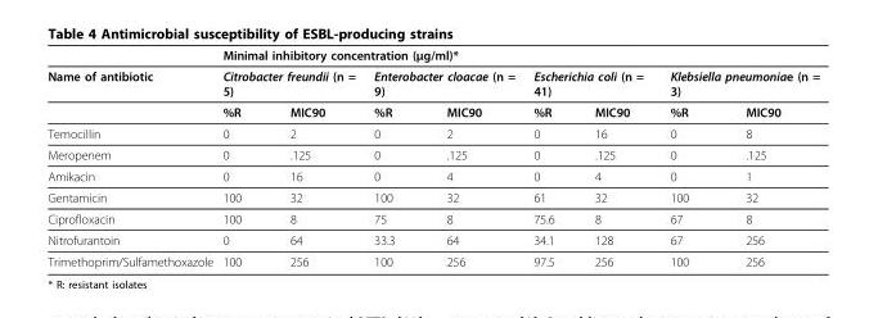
<table><thead><tr><td rowspan="3">Name of antibiotic</td><td colspan="8">Minimal inhibitory concentration (μg/ml)*</td></tr><tr><td colspan="2">Citrobacter freundii (n = 5)</td><td colspan="2">Enterobacter cloacae (n = 9)</td><td colspan="2">Escherichia coli (n = 41)</td><td colspan="2">Klebsiella pneumoniae (n = 3)</td></tr><tr><td>%R</td><td>MIC90</td><td>%R</td><td>MIC90</td><td>%R</td><td>MIC90</td><td>%R</td><td>MIC90</td></tr></thead><tbody><tr><td>Temocillin</td><td>0</td><td>2</td><td>0</td><td>2</td><td>0</td><td>16</td><td>0</td><td>8</td></tr><tr><td>Meropenem</td><td>0</td><td>.125</td><td>0</td><td>.125</td><td>0</td><td>.125</td><td>0</td><td>.125</td></tr><tr><td>Amikacin</td><td>0</td><td>16</td><td>0</td><td>4</td><td>0</td><td>4</td><td>0</td><td>1</td></tr><tr><td>Gentamicin</td><td>100</td><td>32</td><td>100</td><td>32</td><td>61</td><td>32</td><td>100</td><td>32</td></tr><tr><td>Ciprofloxacin</td><td>100</td><td>8</td><td>75</td><td>8</td><td>75.6</td><td>8</td><td>67</td><td>8</td></tr><tr><td>Nitrofurantoin</td><td>0</td><td>64</td><td>33.3</td><td>64</td><td>34.1</td><td>128</td><td>67</td><td>256</td></tr><tr><td>Trimethoprim/Sulfamethoxazole</td><td>100</td><td>256</td><td>100</td><td>256</td><td>97.5</td><td>256</td><td>100</td><td>256</td></tr></tbody></table>